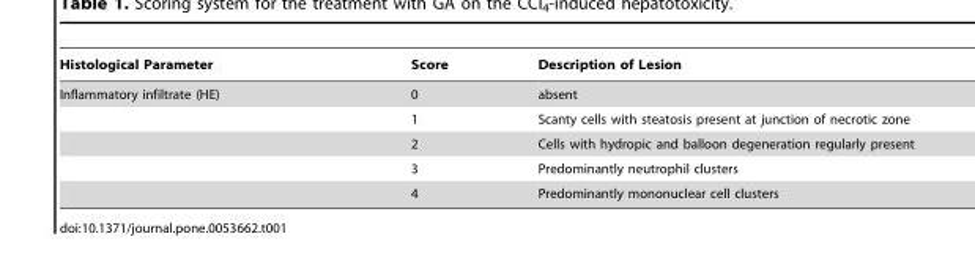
<table><thead><tr><td>Histological Parameter</td><td>Score</td><td>Description of Lesion</td></tr></thead><tbody><tr><td rowspan="5">Inflammatory infiltrate (HE)</td><td>0</td><td>absent</td></tr><tr><td>1</td><td>Scanty cells with steatosis present at junction of necrotic zone</td></tr><tr><td>2</td><td>Cells with hydropic and balloon degeneration regularly present</td></tr><tr><td>3</td><td>Predominantly neutrophil clusters</td></tr><tr><td>4</td><td>Predominantly mononuclear cell clusters</td></tr></tbody></table>